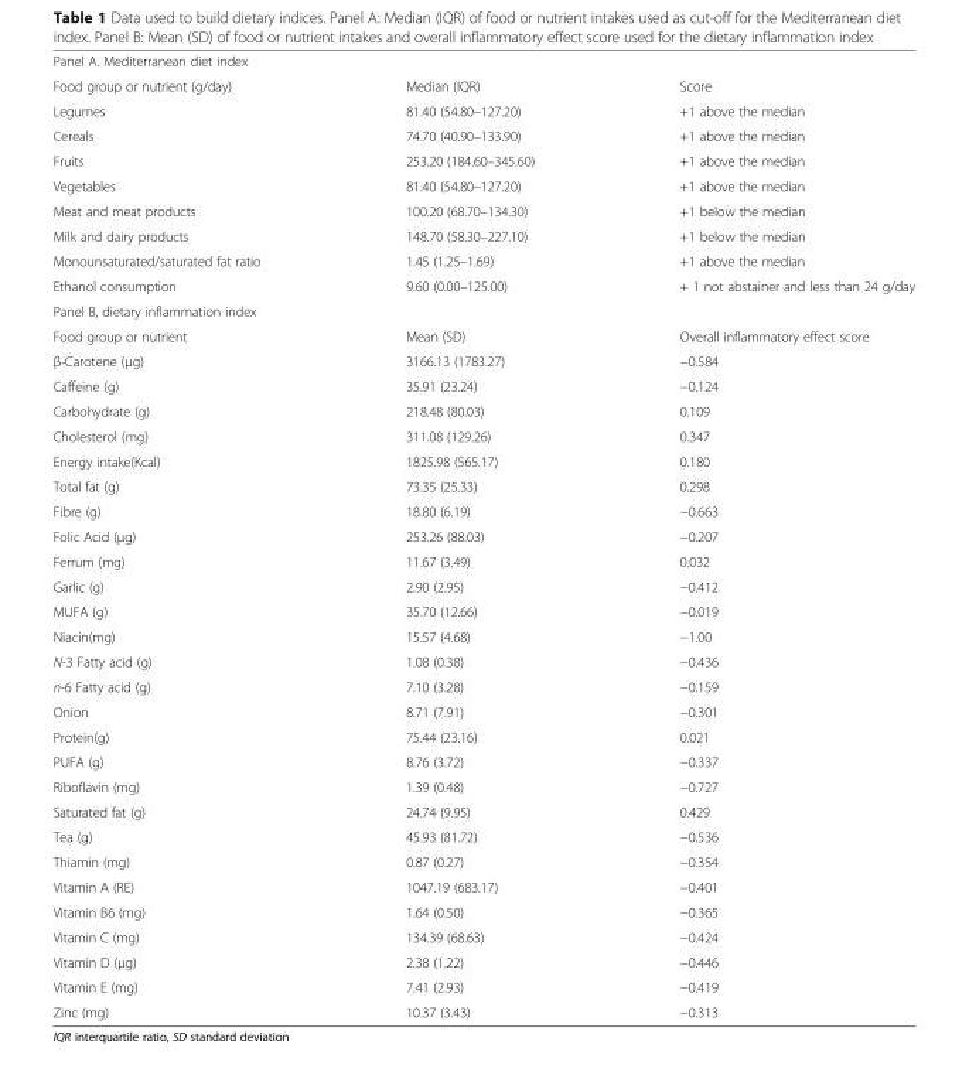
<table><tbody><tr><td colspan="3">Panel A. Mediterranean diet index</td></tr><tr><td>Food group or nutrient (g/day)</td><td>Median (IQR)</td><td>Score</td></tr><tr><td>Legumes</td><td>81.40 (54.80–127.20)</td><td>+1 above the median</td></tr><tr><td>Cereals</td><td>74.70 (40.90–133.90)</td><td>+1 above the median</td></tr><tr><td>Fruits</td><td>253.20 (184.60–345.60)</td><td>+1 above the median</td></tr><tr><td>Vegetables</td><td>81.40 (54.80–127.20)</td><td>+1 above the median</td></tr><tr><td>Meat and meat products</td><td>100.20 (68.70–134.30)</td><td>+1 below the median</td></tr><tr><td>Milk and dairy products</td><td>148.70 (58.30–227.10)</td><td>+1 below the median</td></tr><tr><td>Monounsaturated/saturated fat ratio</td><td>1.45 (1.25–1.69)</td><td>+1 above the median</td></tr><tr><td>Ethanol consumption</td><td>9.60 (0.00–125.00)</td><td>+ 1 not abstainer and less than 24 g/day</td></tr><tr><td colspan="3">Panel B, dietary inflammation index</td></tr><tr><td>Food group or nutrient</td><td>Mean (SD)</td><td>Overall inflammatory effect score</td></tr><tr><td>β-Carotene (μg)</td><td>3166.13 (1783.27)</td><td>−0.584</td></tr><tr><td>Caffeine (g)</td><td>35.91 (23.24)</td><td>−0.124</td></tr><tr><td>Carbohydrate (g)</td><td>218.48 (80.03)</td><td>0.109</td></tr><tr><td>Cholesterol (mg)</td><td>311.08 (129.26)</td><td>0.347</td></tr><tr><td>Energy intake(Kcal)</td><td>1825.98 (565.17)</td><td>0.180</td></tr><tr><td>Total fat (g)</td><td>73.35 (25.33)</td><td>0.298</td></tr><tr><td>Fibre (g)</td><td>18.80 (6.19)</td><td>−0.663</td></tr><tr><td>Folic Acid (μg)</td><td>253.26 (88.03)</td><td>−0.207</td></tr><tr><td>Ferrum (mg)</td><td>11.67 (3.49)</td><td>0.032</td></tr><tr><td>Garlic (g)</td><td>2.90 (2.95)</td><td>−0.412</td></tr><tr><td>MUFA (g)</td><td>35.70 (12.66)</td><td>−0.019</td></tr><tr><td>Niacin(mg)</td><td>15.57 (4.68)</td><td>−1.00</td></tr><tr><td>N-3 Fatty acid (g)</td><td>1.08 (0.38)</td><td>−0.436</td></tr><tr><td>n-6 Fatty acid (g)</td><td>7.10 (3.28)</td><td>−0.159</td></tr><tr><td>Onion</td><td>8.71 (7.91)</td><td>−0.301</td></tr><tr><td>Protein(g)</td><td>75.44 (23.16)</td><td>0.021</td></tr><tr><td>PUFA (g)</td><td>8.76 (3.72)</td><td>−0.337</td></tr><tr><td>Riboflavin (mg)</td><td>1.39 (0.48)</td><td>−0.727</td></tr><tr><td>Saturated fat (g)</td><td>24.74 (9.95)</td><td>0.429</td></tr><tr><td>Tea (g)</td><td>45.93 (81.72)</td><td>−0.536</td></tr><tr><td>Thiamin (mg)</td><td>0.87 (0.27)</td><td>−0.354</td></tr><tr><td>Vitamin A (RE)</td><td>1047.19 (683.17)</td><td>−0.401</td></tr><tr><td>Vitamin B6 (mg)</td><td>1.64 (0.50)</td><td>−0.365</td></tr><tr><td>Vitamin C (mg)</td><td>134.39 (68.63)</td><td>−0.424</td></tr><tr><td>Vitamin D (μg)</td><td>2.38 (1.22)</td><td>−0.446</td></tr><tr><td>Vitamin E (mg)</td><td>7.41 (2.93)</td><td>−0.419</td></tr><tr><td>Zinc (mg)</td><td>10.37 (3.43)</td><td>−0.313</td></tr></tbody></table>